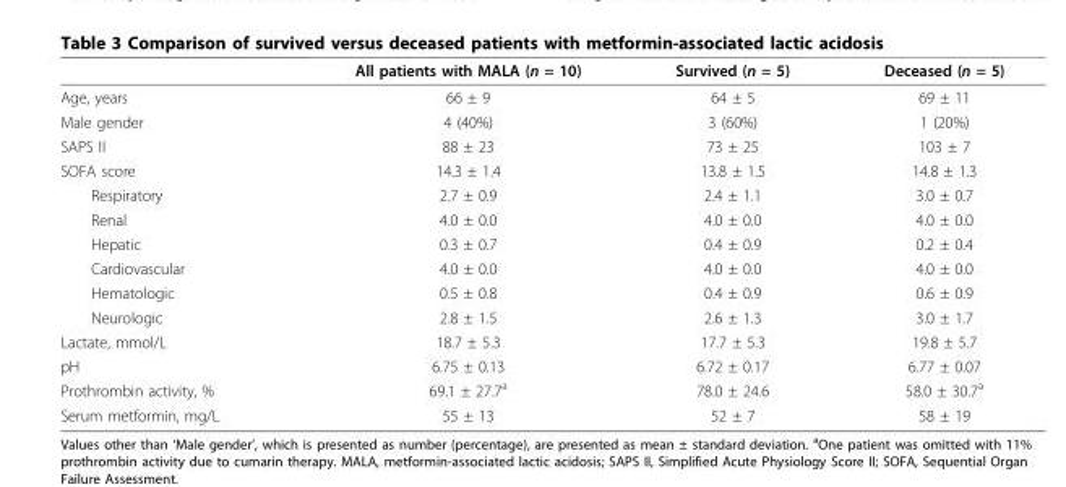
<table><thead><tr><td></td><td>All patients with MALA (n = 10)</td><td>Survived (n = 5)</td><td>Deceased (n = 5)</td></tr></thead><tbody><tr><td>Age, years</td><td>66 ± 9</td><td>64 ± 5</td><td>69 ± 11</td></tr><tr><td>Male gender</td><td>4 (40%)</td><td>3 (60%)</td><td>1 (20%)</td></tr><tr><td>SAPS II</td><td>88 ± 23</td><td>73 ± 25</td><td>103 ± 7</td></tr><tr><td>SOFA score</td><td>14.3 ± 1.4</td><td>13.8 ± 1.5</td><td>14.8 ± 1.3</td></tr><tr><td>Respiratory</td><td>2.7 ± 0.9</td><td>2.4 ± 1.1</td><td>3.0 ± 0.7</td></tr><tr><td>Renal</td><td>4.0 ± 0.0</td><td>4.0 ± 0.0</td><td>4.0 ± 0.0</td></tr><tr><td>Hepatic</td><td>0.3 ± 0.7</td><td>0.4 ± 0.9</td><td>0.2 ± 0.4</td></tr><tr><td>Cardiovascular</td><td>4.0 ± 0.0</td><td>4.0 ± 0.0</td><td>4.0 ± 0.0</td></tr><tr><td>Hematologic</td><td>0.5 ± 0.8</td><td>0.4 ± 0.9</td><td>0.6 ± 0.9</td></tr><tr><td>Neurologic</td><td>2.8 ± 1.5</td><td>2.6 ± 1.3</td><td>3.0 ± 1.7</td></tr><tr><td>Lactate, mmol/L</td><td>18.7 ± 5.3</td><td>17.7 ± 5.3</td><td>19.8 ± 5.7</td></tr><tr><td>pH</td><td>6.75 ± 0.13</td><td>6.72 ± 0.17</td><td>6.77 ± 0.07</td></tr><tr><td>Prothrombin activity, %</td><td>69.1 ± 27.7<sup>a</sup></td><td>78.0 ± 24.6</td><td>58.0 ± 30.7<sup>a</sup></td></tr><tr><td>Serum metformin, mg/L</td><td>55 ± 13</td><td>52 ± 7</td><td>58 ± 19</td></tr></tbody></table>